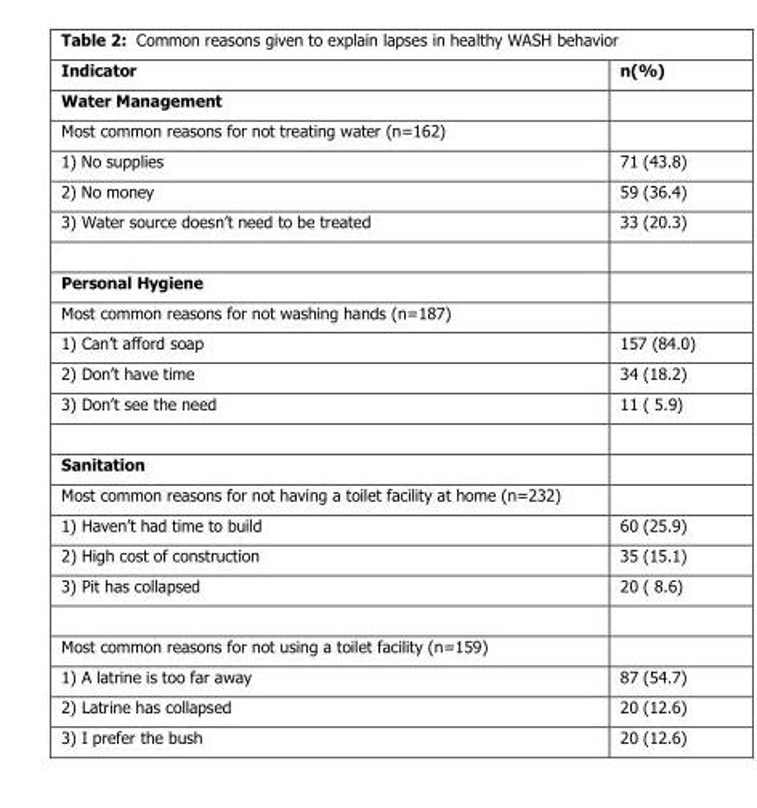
<table><thead><tr><td>Indicator</td><td>n(%)</td></tr></thead><tbody><tr><td colspan="2">Water Management</td></tr><tr><td colspan="2">Most common reasons for not treating water (n=162)</td></tr><tr><td>1) No supplies</td><td>71 (43.8)</td></tr><tr><td>2) No money</td><td>59 (36.4)</td></tr><tr><td>3) Water source doesn’t need to be treated</td><td>33 (20.3)</td></tr><tr><td colspan="2">Personal Hygiene</td></tr><tr><td colspan="2">Most common reasons for not washing hands (n=187)</td></tr><tr><td>1) Can’t afford soap</td><td>157 (84.0)</td></tr><tr><td>2) Don’t have time</td><td>34 (18.2)</td></tr><tr><td>3) Don’t see the need</td><td>11 ( 5.9)</td></tr><tr><td colspan="2">Sanitation</td></tr><tr><td colspan="2">Most common reasons for not having a toilet facility at home (n=232)</td></tr><tr><td>1) Haven’t had time to build</td><td>60 (25.9)</td></tr><tr><td>2) High cost of construction</td><td>35 (15.1)</td></tr><tr><td>3) Pit has collapsed</td><td>20 ( 8.6)</td></tr><tr><td colspan="2">Most common reasons for not using a toilet facility (n=159)</td></tr><tr><td>1) A latrine is too far away</td><td>87 (54.7)</td></tr><tr><td>2) Latrine has collapsed</td><td>20 (12.6)</td></tr><tr><td>3) I prefer the bush</td><td>20 (12.6)</td></tr></tbody></table>